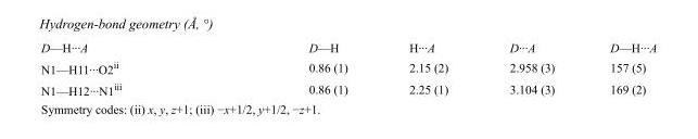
<table><tbody><tr><td>D—H···A</td><td>D—H</td><td>H···A</td><td>D···A</td><td>D—H···A</td></tr><tr><td>N1—H11···O2<sup>ii</sup></td><td>0.86 (1)</td><td>2.15 (2)</td><td>2.958 (3)</td><td>157 (5)</td></tr><tr><td>N1—H12···N1<sup>iii</sup></td><td>0.86 (1)</td><td>2.25 (1)</td><td>3.104 (3)</td><td>169 (2)</td></tr></tbody></table>